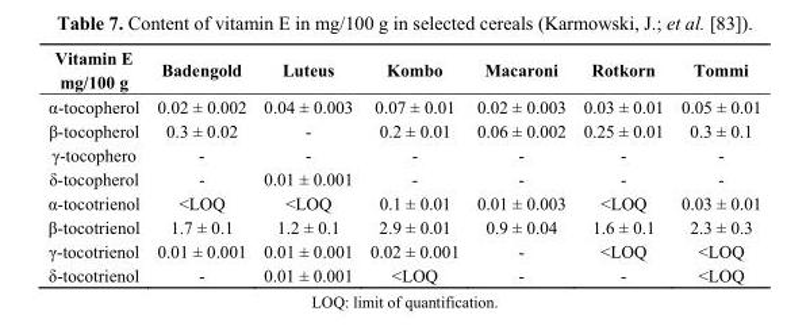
<table><thead><tr><td>Vitamin E mg/100 g</td><td>Badengold</td><td>Luteus</td><td>Kombo</td><td>Macaroni</td><td>Rotkorn</td><td>Tommi</td></tr></thead><tbody><tr><td>α-tocopherol</td><td>0.02 ± 0.002</td><td>0.04 ± 0.003</td><td>0.07 ± 0.01</td><td>0.02 ± 0.003</td><td>0.03 ± 0.01</td><td>0.05 ± 0.01</td></tr><tr><td>β-tocopherol</td><td>0.3 ± 0.02</td><td>-</td><td>0.2 ± 0.01</td><td>0.06 ± 0.002</td><td>0.25 ± 0.01</td><td>0.3 ± 0.1</td></tr><tr><td>γ-tocophero</td><td>-</td><td>-</td><td>-</td><td>-</td><td>-</td><td>-</td></tr><tr><td>δ-tocopherol</td><td>-</td><td>0.01 ± 0.001</td><td>-</td><td>-</td><td>-</td><td>-</td></tr><tr><td>α-tocotrienol</td><td>&lt;LOQ</td><td>&lt;LOQ</td><td>0.1 ± 0.01</td><td>0.01 ± 0.003</td><td>&lt;LOQ</td><td>0.03 ± 0.01</td></tr><tr><td>β-tocotrienol</td><td>1.7 ± 0.1</td><td>1.2 ± 0.1</td><td>2.9 ± 0.01</td><td>0.9 ± 0.04</td><td>1.6 ± 0.1</td><td>2.3 ± 0.3</td></tr><tr><td>γ-tocotrienol</td><td>0.01 ± 0.001</td><td>0.01 ± 0.001</td><td>0.02 ± 0.001</td><td>-</td><td>&lt;LOQ</td><td>&lt;LOQ</td></tr><tr><td>δ-tocotrienol</td><td>-</td><td>0.01 ± 0.001</td><td>&lt;LOQ</td><td>-</td><td>-</td><td>&lt;LOQ</td></tr></tbody></table>